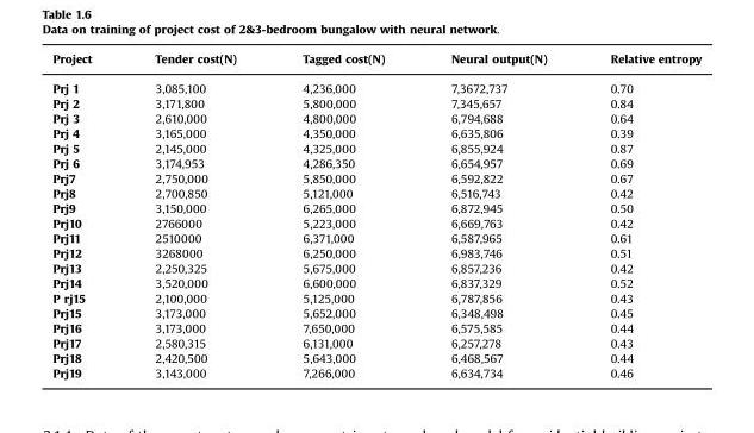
<table><thead><tr><td>Project</td><td>Tender cost(N)</td><td>Tagged cost(N)</td><td>Neural output(N)</td><td>Relative entropy</td></tr></thead><tbody><tr><td>Prj 1</td><td>3,085,100</td><td>4,236,000</td><td>7,3672,737</td><td>0.70</td></tr><tr><td>Prj 2</td><td>3,171,800</td><td>5,800,000</td><td>7,345,657</td><td>0.84</td></tr><tr><td>Prj 3</td><td>2,610,000</td><td>4,800,000</td><td>6,794,688</td><td>0.64</td></tr><tr><td>Prj 4</td><td>3,165,000</td><td>4,350,000</td><td>6,635,806</td><td>0.39</td></tr><tr><td>Prj 5</td><td>2,145,000</td><td>4,325,000</td><td>6,855,924</td><td>0.87</td></tr><tr><td>Prj 6</td><td>3,174,953</td><td>4,286,350</td><td>6,654,957</td><td>0.69</td></tr><tr><td>Prj7</td><td>2,750,000</td><td>5,850,000</td><td>6,592,822</td><td>0.67</td></tr><tr><td>Prj8</td><td>2,700,850</td><td>5,121,000</td><td>6,516,743</td><td>0.42</td></tr><tr><td>Prj9</td><td>3,150,000</td><td>6,265,000</td><td>6,872,945</td><td>0.50</td></tr><tr><td>Prj10</td><td>2766000</td><td>5,223,000</td><td>6,669,763</td><td>0.42</td></tr><tr><td>Prj11</td><td>2510000</td><td>6,371,000</td><td>6,587,965</td><td>0.61</td></tr><tr><td>Prj12</td><td>3268000</td><td>6,250,000</td><td>6,983,746</td><td>0.51</td></tr><tr><td>Prj13</td><td>2,250,325</td><td>5,675,000</td><td>6,857,236</td><td>0.42</td></tr><tr><td>Prj14</td><td>3,520,000</td><td>6,600,000</td><td>6,837,329</td><td>0.52</td></tr><tr><td>P rj15</td><td>2,100,000</td><td>5,125,000</td><td>6,787,856</td><td>0.43</td></tr><tr><td>Prj15</td><td>3,173,000</td><td>5,652,000</td><td>6,348,498</td><td>0.45</td></tr><tr><td>Prj16</td><td>3,173,000</td><td>7,650,000</td><td>6,575,585</td><td>0.44</td></tr><tr><td>Prj17</td><td>2,580,315</td><td>6,131,000</td><td>6,257,278</td><td>0.43</td></tr><tr><td>Prj18</td><td>2,420,500</td><td>5,643,000</td><td>6,468,567</td><td>0.44</td></tr><tr><td>Prj19</td><td>3,143,000</td><td>7,266,000</td><td>6,634,734</td><td>0.46</td></tr></tbody></table>